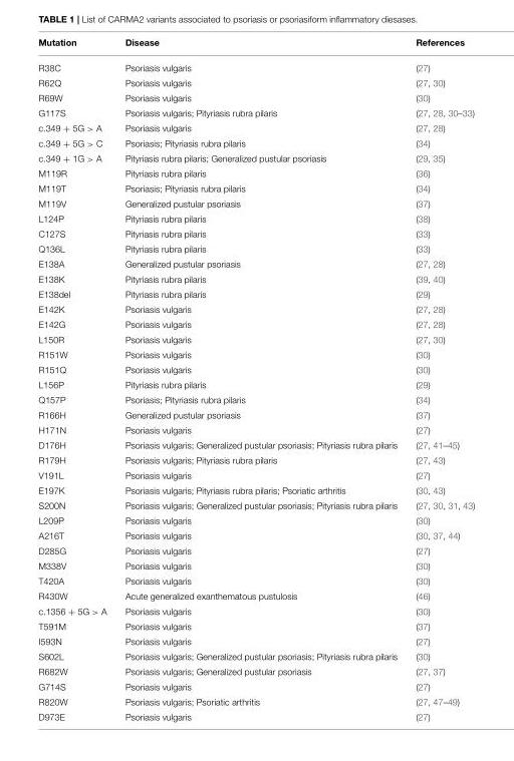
<table><thead><tr><td>Mutation</td><td>Disease</td><td>References</td></tr></thead><tbody><tr><td>R38C</td><td>Psoriasis vulgaris</td><td>(27)</td></tr><tr><td>R62Q</td><td>Psoriasis vulgaris</td><td>(27, 30)</td></tr><tr><td>R69W</td><td>Psoriasis vulgaris</td><td>(30)</td></tr><tr><td>G117S</td><td>Psoriasis vulgaris; Pityriasis rubra pilaris</td><td>(27, 28, 30–33)</td></tr><tr><td>c.349 + 5G &gt; A</td><td>Psoriasis vulgaris</td><td>(27, 28)</td></tr><tr><td>c.349 + 5G &gt; C</td><td>Psoriasis; Pityriasis rubra pilaris</td><td>(34)</td></tr><tr><td>c.349 + 1G &gt; A</td><td>Pityriasis rubra pilaris; Generalized pustular psoriasis</td><td>(29, 35)</td></tr><tr><td>M119R</td><td>Pityriasis rubra pilaris</td><td>(36)</td></tr><tr><td>M119T</td><td>Psoriasis; Pityriasis rubra pilaris</td><td>(34)</td></tr><tr><td>M119V</td><td>Generalized pustular psoriasis</td><td>(37)</td></tr><tr><td>L124P</td><td>Pityriasis rubra pilaris</td><td>(38)</td></tr><tr><td>C127S</td><td>Pityriasis rubra pilaris</td><td>(33)</td></tr><tr><td>Q136L</td><td>Pityriasis rubra pilaris</td><td>(33)</td></tr><tr><td>E138A</td><td>Generalized pustular psoriasis</td><td>(27, 28)</td></tr><tr><td>E138K</td><td>Pityriasis rubra pilaris</td><td>(39, 40)</td></tr><tr><td>E138del</td><td>Pityriasis rubra pilaris</td><td>(29)</td></tr><tr><td>E142K</td><td>Psoriasis vulgaris</td><td>(27, 28)</td></tr><tr><td>E142G</td><td>Psoriasis vulgaris</td><td>(27, 28)</td></tr><tr><td>L150R</td><td>Psoriasis vulgaris</td><td>(27, 30)</td></tr><tr><td>R151W</td><td>Psoriasis vulgaris</td><td>(30)</td></tr><tr><td>R151Q</td><td>Psoriasis vulgaris</td><td>(30)</td></tr><tr><td>L156P</td><td>Pityriasis rubra pilaris</td><td>(29)</td></tr><tr><td>Q157P</td><td>Psoriasis; Pityriasis rubra pilaris</td><td>(34)</td></tr><tr><td>R166H</td><td>Generalized pustular psoriasis</td><td>(37)</td></tr><tr><td>H171N</td><td>Psoriasis vulgaris</td><td>(27)</td></tr><tr><td>D176H</td><td>Psoriasis vulgaris; Generalized pustular psoriasis; Pityriasis rubra pilaris</td><td>(27, 41–45)</td></tr><tr><td>R179H</td><td>Psoriasis vulgaris; Pityriasis rubra pilaris</td><td>(27, 43)</td></tr><tr><td>V191L</td><td>Psoriasis vulgaris</td><td>(27)</td></tr><tr><td>E197K</td><td>Psoriasis vulgaris; Pityriasis rubra pilaris; Psoriatic arthritis</td><td>(30, 43)</td></tr><tr><td>S200N</td><td>Psoriasis vulgaris; Generalized pustular psoriasis; Pityriasis rubra pilaris</td><td>(27, 30, 31, 43)</td></tr><tr><td>L209P</td><td>Psoriasis vulgaris</td><td>(30)</td></tr><tr><td>A216T</td><td>Psoriasis vulgaris</td><td>(30, 37, 44)</td></tr><tr><td>D285G</td><td>Psoriasis vulgaris</td><td>(27)</td></tr><tr><td>M338V</td><td>Psoriasis vulgaris</td><td>(30)</td></tr><tr><td>T420A</td><td>Psoriasis vulgaris</td><td>(30)</td></tr><tr><td>R430W</td><td>Acute generalized exanthematous pustulosis</td><td>(46)</td></tr><tr><td>c.1356 + 5G &gt; A</td><td>Psoriasis vulgaris</td><td>(30)</td></tr><tr><td>T591M</td><td>Psoriasis vulgaris</td><td>(37)</td></tr><tr><td>I593N</td><td>Psoriasis vulgaris</td><td>(27)</td></tr><tr><td>S602L</td><td>Psoriasis vulgaris; Generalized pustular psoriasis; Pityriasis rubra pilaris</td><td>(30)</td></tr><tr><td>R682W</td><td>Psoriasis vulgaris; Generalized pustular psoriasis</td><td>(27, 37)</td></tr><tr><td>G714S</td><td>Psoriasis vulgaris</td><td>(27)</td></tr><tr><td>R820W</td><td>Psoriasis vulgaris; Psoriatic arthritis</td><td>(27, 47–49)</td></tr><tr><td>D973E</td><td>Psoriasis vulgaris</td><td>(27)</td></tr></tbody></table>